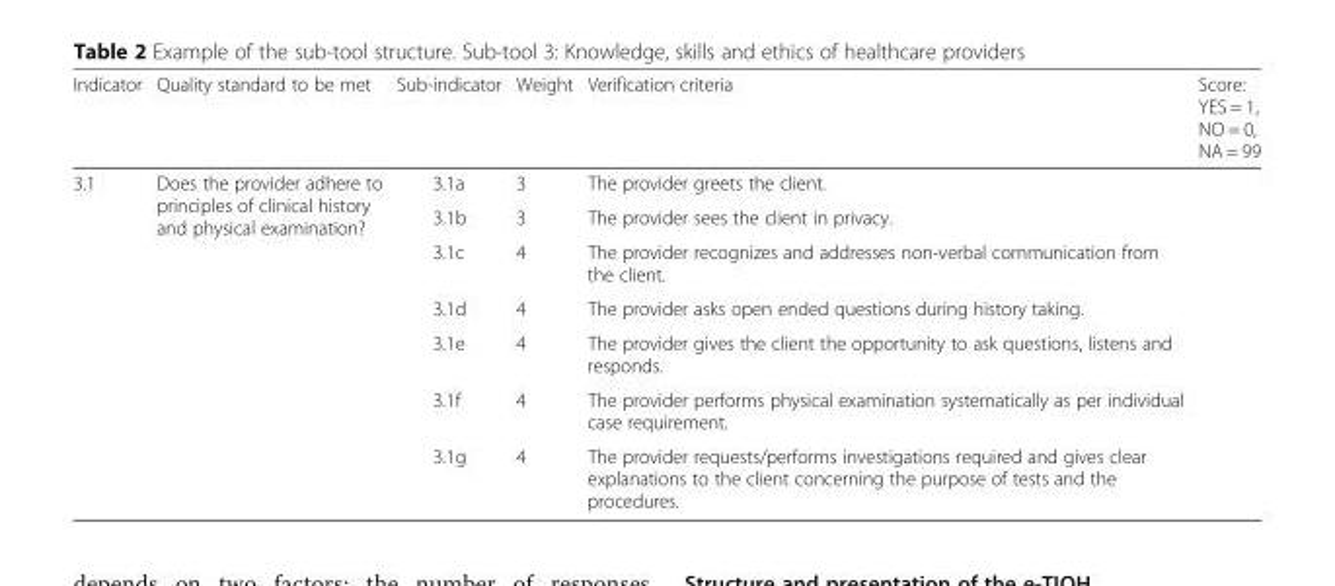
<table><thead><tr><td>Indicator</td><td>Quality standard to be met</td><td>Sub-indicator</td><td>Weight</td><td>Verification criteria</td><td>Score: YES = 1, NO = 0, NA = 99</td></tr></thead><tbody><tr><td rowspan="7">3.1</td><td rowspan="7">Does the provider adhere to principles of clinical history and physical examination?</td><td>3.1a</td><td>3</td><td>The provider greets the client.</td><td></td></tr><tr><td>3.1b</td><td>3</td><td>The provider sees the client in privacy.</td><td></td></tr><tr><td>3.1c</td><td>4</td><td>The provider recognizes and addresses non-verbal communication from the client.</td><td></td></tr><tr><td>3.1d</td><td>4</td><td>The provider asks open ended questions during history taking.</td><td></td></tr><tr><td>3.1e</td><td>4</td><td>The provider gives the client the opportunity to ask questions, listens and responds.</td><td></td></tr><tr><td>3.1f</td><td>4</td><td>The provider performs physical examination systematically as per individual case requirement.</td><td></td></tr><tr><td>3.1g</td><td>4</td><td>The provider requests/performs investigations required and gives clear explanations to the client concerning the purpose of tests and the procedures.</td><td></td></tr></tbody></table>